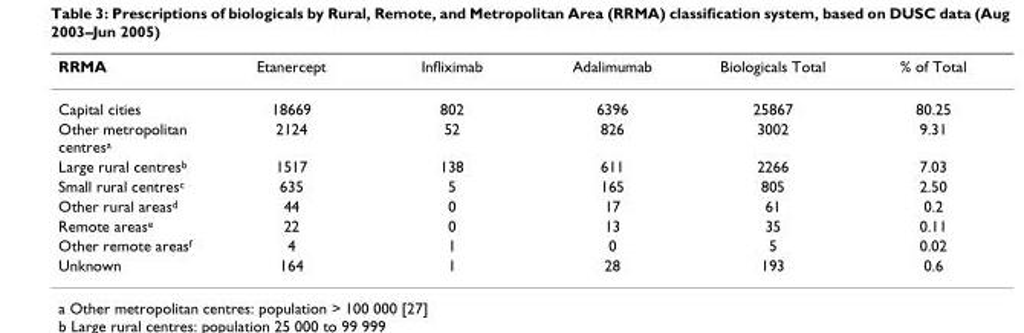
<table><thead><tr><td>RRMA</td><td>Etanercept</td><td>Infliximab</td><td>Adalimumab</td><td>Biologicals Total</td><td>% of Total</td></tr></thead><tbody><tr><td>Capital cities</td><td>18669</td><td>802</td><td>6396</td><td>25867</td><td>80.25</td></tr><tr><td>Other metropolitan centres<sup>a</sup></td><td>2124</td><td>52</td><td>826</td><td>3002</td><td>9.31</td></tr><tr><td>Large rural centres<sup>b</sup></td><td>1517</td><td>138</td><td>611</td><td>2266</td><td>7.03</td></tr><tr><td>Small rural centres<sup>c</sup></td><td>635</td><td>5</td><td>165</td><td>805</td><td>2.50</td></tr><tr><td>Other rural areas<sup>d</sup></td><td>44</td><td>0</td><td>17</td><td>61</td><td>0.2</td></tr><tr><td>Remote areas<sup>e</sup></td><td>22</td><td>0</td><td>13</td><td>35</td><td>0.11</td></tr><tr><td>Other remote areas<sup>f</sup></td><td>4</td><td>1</td><td>0</td><td>5</td><td>0.02</td></tr><tr><td>Unknown</td><td>164</td><td>1</td><td>28</td><td>193</td><td>0.6</td></tr></tbody></table>